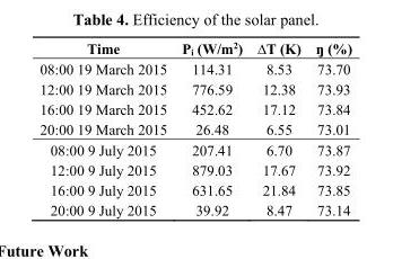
<table><thead><tr><td>Time</td><td>P<sub>i</sub> (W/m<sup>2</sup>)</td><td>∆T (K)</td><td>ŋ (%)</td></tr></thead><tbody><tr><td>08:00 19 March 2015</td><td>114.31</td><td>8.53</td><td>73.70</td></tr><tr><td>12:00 19 March 2015</td><td>776.59</td><td>12.38</td><td>73.93</td></tr><tr><td>16:00 19 March 2015</td><td>452.62</td><td>17.12</td><td>73.84</td></tr><tr><td>20:00 19 March 2015</td><td>26.48</td><td>6.55</td><td>73.01</td></tr><tr><td>08:00 9 July 2015</td><td>207.41</td><td>6.70</td><td>73.87</td></tr><tr><td>12:00 9 July 2015</td><td>879.03</td><td>17.67</td><td>73.92</td></tr><tr><td>16:00 9 July 2015</td><td>631.65</td><td>21.84</td><td>73.85</td></tr><tr><td>20:00 9 July 2015</td><td>39.92</td><td>8.47</td><td>73.14</td></tr></tbody></table>